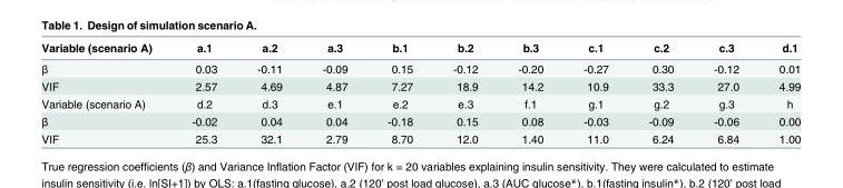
<table><thead><tr><td>Variable (scenario A)</td><td>a.1</td><td>a.2</td><td>a.3</td><td>b.1</td><td>b.2</td><td>b.3</td><td>c.1</td><td>c.2</td><td>c.3</td><td>d.1</td></tr></thead><tbody><tr><td>β</td><td>0.03</td><td>-0.11</td><td>-0.09</td><td>0.15</td><td>-0.12</td><td>-0.20</td><td>-0.27</td><td>0.30</td><td>-0.12</td><td>0.01</td></tr><tr><td>VIF</td><td>2.57</td><td>4.69</td><td>4.87</td><td>7.27</td><td>18.9</td><td>14.2</td><td>10.9</td><td>33.3</td><td>27.0</td><td>4.99</td></tr><tr><td>Variable (scenario A)</td><td>d.2</td><td>d.3</td><td>e.1</td><td>e.2</td><td>e.3</td><td>f.1</td><td>g.1</td><td>g.2</td><td>g.3</td><td>h</td></tr><tr><td>β</td><td>-0.02</td><td>0.04</td><td>0.04</td><td>-0.18</td><td>0.15</td><td>0.08</td><td>-0.03</td><td>-0.09</td><td>-0.06</td><td>0.00</td></tr><tr><td>VIF</td><td>25.3</td><td>32.1</td><td>2.79</td><td>8.70</td><td>12.0</td><td>1.40</td><td>11.0</td><td>6.24</td><td>6.84</td><td>1.00</td></tr></tbody></table>